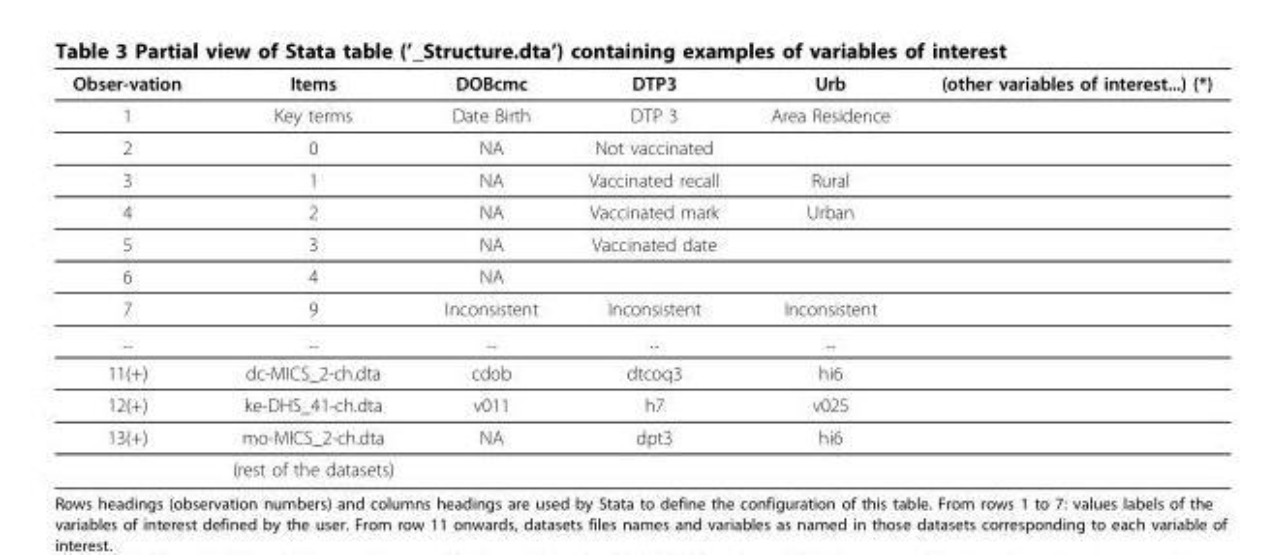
<table><thead><tr><td>Obser-vation</td><td>Items</td><td>DOBcmc</td><td>DTP3</td><td>Urb</td><td>(other variables of interest...) (*)</td></tr></thead><tbody><tr><td>1</td><td>Key terms</td><td>Date Birth</td><td>DTP 3</td><td>Area Residence</td><td></td></tr><tr><td>2</td><td>0</td><td>NA</td><td>Not vaccinated</td><td></td><td></td></tr><tr><td>3</td><td>1</td><td>NA</td><td>Vaccinated recall</td><td>Rural</td><td></td></tr><tr><td>4</td><td>2</td><td>NA</td><td>Vaccinated mark</td><td>Urban</td><td></td></tr><tr><td>5</td><td>3</td><td>NA</td><td>Vaccinated date</td><td></td><td></td></tr><tr><td>6</td><td>4</td><td>NA</td><td></td><td></td><td></td></tr><tr><td>7</td><td>9</td><td>Inconsistent</td><td>Inconsistent</td><td>Inconsistent</td><td></td></tr><tr><td>...</td><td>...</td><td>...</td><td>...</td><td>...</td><td></td></tr><tr><td>11(+)</td><td>dc-MICS_2-ch.dta</td><td>cdob</td><td>dtcoq3</td><td>hi6</td><td></td></tr><tr><td>12(+)</td><td>ke-DHS_41-ch.dta</td><td>v011</td><td>h7</td><td>v025</td><td></td></tr><tr><td rowspan="2">13(+)</td><td>mo-MICS_2-ch.dta</td><td>NA</td><td>dpt3</td><td>hi6</td><td></td></tr><tr><td>(rest of the datasets)</td><td></td><td></td><td></td><td></td></tr></tbody></table>